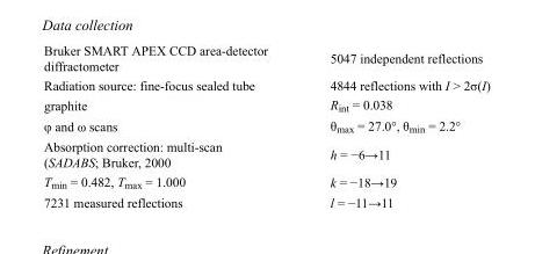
<table><tbody><tr><td>Bruker SMART APEX CCD area-detector diffractometer</td><td>5047 independent reflections</td></tr><tr><td>Radiation source: fine-focus sealed tube</td><td>4844 reflections with I &gt; 2σ(I)</td></tr><tr><td>graphite</td><td>R<sub>int</sub> = 0.038</td></tr><tr><td>φ and ω scans</td><td>θ<sub>max</sub> = 27.0°, θ<sub>min</sub> = 2.2°</td></tr><tr><td>Absorption correction: multi-scan (SADABS; Bruker, 2000</td><td>h = −6→11</td></tr><tr><td>T<sub>min</sub> = 0.482, T<sub>max</sub> = 1.000</td><td>k = −18→19</td></tr><tr><td>7231 measured reflections</td><td>l = −11→11</td></tr></tbody></table>